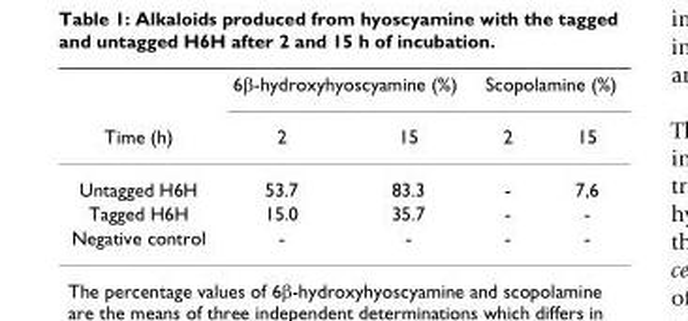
<table><thead><tr><td rowspan="2">Time (h)</td><td colspan="2">6β-hydroxyhyoscyamine (%)</td><td colspan="2">Scopolamine (%)</td></tr><tr><td>2</td><td>15</td><td>2</td><td>15</td></tr></thead><tbody><tr><td>Untagged H6H</td><td>53.7</td><td>83.3</td><td>-</td><td>7,6</td></tr><tr><td>Tagged H6H</td><td>15.0</td><td>35.7</td><td>-</td><td>-</td></tr><tr><td>Negative control</td><td>-</td><td>-</td><td>-</td><td>-</td></tr></tbody></table>